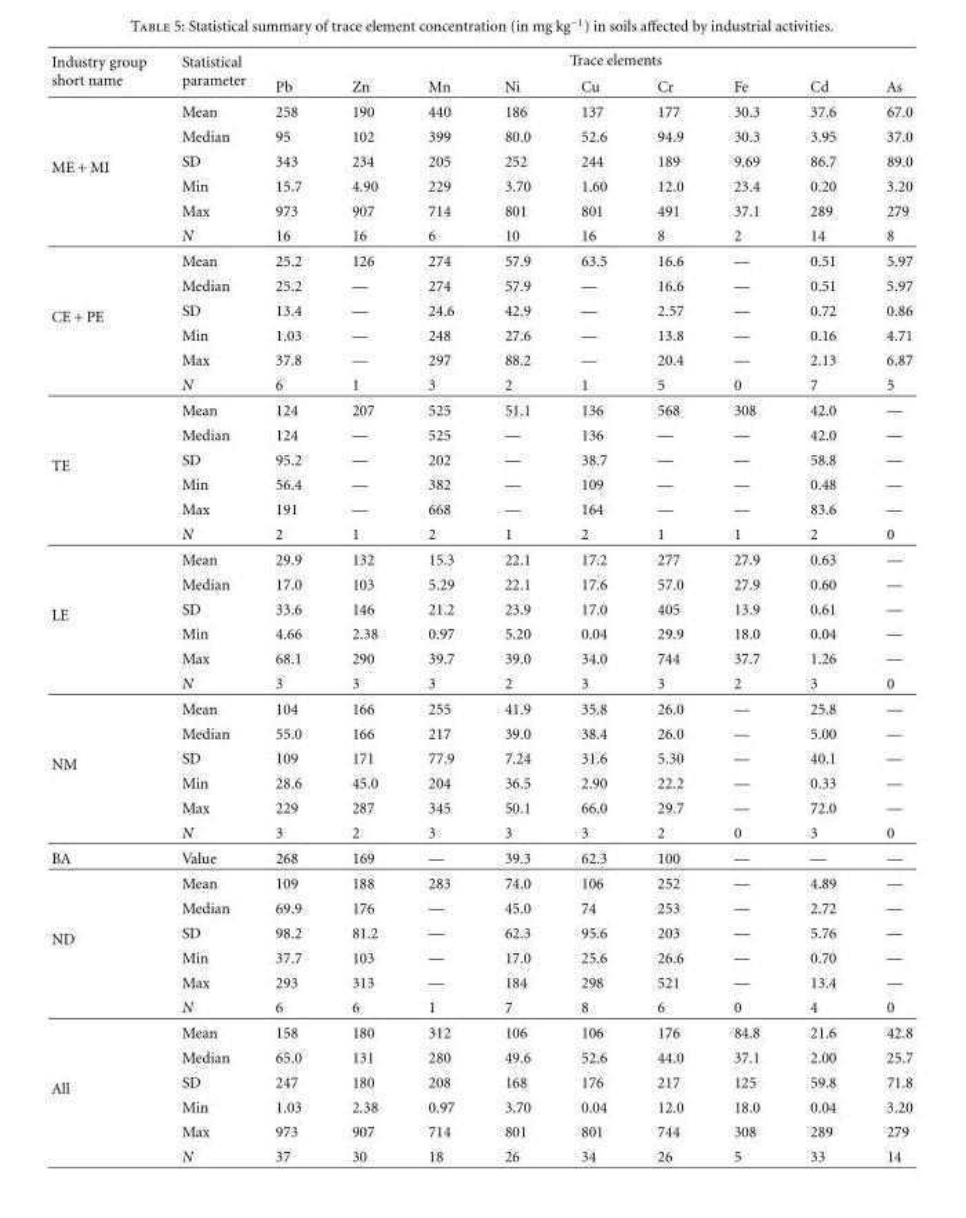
<table><thead><tr><td rowspan="2">Industry group short name</td><td rowspan="2">Statistical parameter</td><td colspan="9">Trace elements</td></tr><tr><td>Pb</td><td>Zn</td><td>Mn</td><td>Ni</td><td>Cu</td><td>Cr</td><td>Fe</td><td>Cd</td><td>As</td></tr></thead><tbody><tr><td rowspan="6">ME + MI</td><td>Mean</td><td>258</td><td>190</td><td>440</td><td>186</td><td>137</td><td>177</td><td>30.3</td><td>37.6</td><td>67.0</td></tr><tr><td>Median</td><td>95</td><td>102</td><td>399</td><td>80.0</td><td>52.6</td><td>94.9</td><td>30.3</td><td>3.95</td><td>37.0</td></tr><tr><td>SD</td><td>343</td><td>234</td><td>205</td><td>252</td><td>244</td><td>189</td><td>9.69</td><td>86.7</td><td>89.0</td></tr><tr><td>Min</td><td>15.7</td><td>4.90</td><td>229</td><td>3.70</td><td>1.60</td><td>12.0</td><td>23.4</td><td>0.20</td><td>3.20</td></tr><tr><td>Max</td><td>973</td><td>907</td><td>714</td><td>801</td><td>801</td><td>491</td><td>37.1</td><td>289</td><td>279</td></tr><tr><td>N</td><td>16</td><td>16</td><td>6</td><td>10</td><td>16</td><td>8</td><td>2</td><td>14</td><td>8</td></tr><tr><td rowspan="6">CE + PE</td><td>Mean</td><td>25.2</td><td>126</td><td>274</td><td>57.9</td><td>63.5</td><td>16.6</td><td>—</td><td>0.51</td><td>5.97</td></tr><tr><td>Median</td><td>25.2</td><td>—</td><td>274</td><td>57.9</td><td>—</td><td>16.6</td><td>—</td><td>0.51</td><td>5.97</td></tr><tr><td>SD</td><td>13.4</td><td>—</td><td>24.6</td><td>42.9</td><td>—</td><td>2.57</td><td>—</td><td>0.72</td><td>0.86</td></tr><tr><td>Min</td><td>1.03</td><td>—</td><td>248</td><td>27.6</td><td>—</td><td>13.8</td><td>—</td><td>0.16</td><td>4.71</td></tr><tr><td>Max</td><td>37.8</td><td>—</td><td>297</td><td>88.2</td><td>—</td><td>20.4</td><td>—</td><td>2.13</td><td>6.87</td></tr><tr><td>N</td><td>6</td><td>1</td><td>3</td><td>2</td><td>1</td><td>5</td><td>0</td><td>7</td><td>5</td></tr><tr><td rowspan="6">TE</td><td>Mean</td><td>124</td><td>207</td><td>525</td><td>51.1</td><td>136</td><td>568</td><td>308</td><td>42.0</td><td>—</td></tr><tr><td>Median</td><td>124</td><td>—</td><td>525</td><td>—</td><td>136</td><td>—</td><td>—</td><td>42.0</td><td>—</td></tr><tr><td>SD</td><td>95.2</td><td>—</td><td>202</td><td>—</td><td>38.7</td><td>—</td><td>—</td><td>58.8</td><td>—</td></tr><tr><td>Min</td><td>56.4</td><td>—</td><td>382</td><td>—</td><td>109</td><td>—</td><td>—</td><td>0.48</td><td>—</td></tr><tr><td>Max</td><td>191</td><td>—</td><td>668</td><td>—</td><td>164</td><td>—</td><td>—</td><td>83.6</td><td>—</td></tr><tr><td>N</td><td>2</td><td>1</td><td>2</td><td>1</td><td>2</td><td>1</td><td>1</td><td>2</td><td>0</td></tr><tr><td rowspan="6">LE</td><td>Mean</td><td>29.9</td><td>132</td><td>15.3</td><td>22.1</td><td>17.2</td><td>277</td><td>27.9</td><td>0.63</td><td>—</td></tr><tr><td>Median</td><td>17.0</td><td>103</td><td>5.29</td><td>22.1</td><td>17.6</td><td>57.0</td><td>27.9</td><td>0.60</td><td>—</td></tr><tr><td>SD</td><td>33.6</td><td>146</td><td>21.2</td><td>23.9</td><td>17.0</td><td>405</td><td>13.9</td><td>0.61</td><td>—</td></tr><tr><td>Min</td><td>4.66</td><td>2.38</td><td>0.97</td><td>5.20</td><td>0.04</td><td>29.9</td><td>18.0</td><td>0.04</td><td>—</td></tr><tr><td>Max</td><td>68.1</td><td>290</td><td>39.7</td><td>39.0</td><td>34.0</td><td>744</td><td>37.7</td><td>1.26</td><td>—</td></tr><tr><td>N</td><td>3</td><td>3</td><td>3</td><td>2</td><td>3</td><td>3</td><td>2</td><td>3</td><td>0</td></tr><tr><td rowspan="6">NM</td><td>Mean</td><td>104</td><td>166</td><td>255</td><td>41.9</td><td>35.8</td><td>26.0</td><td>—</td><td>25.8</td><td>—</td></tr><tr><td>Median</td><td>55.0</td><td>166</td><td>217</td><td>39.0</td><td>38.4</td><td>26.0</td><td>—</td><td>5.00</td><td>—</td></tr><tr><td>SD</td><td>109</td><td>171</td><td>77.9</td><td>7.24</td><td>31.6</td><td>5.30</td><td>—</td><td>40.1</td><td>—</td></tr><tr><td>Min</td><td>28.6</td><td>45.0</td><td>204</td><td>36.5</td><td>2.90</td><td>22.2</td><td>—</td><td>0.33</td><td>—</td></tr><tr><td>Max</td><td>229</td><td>287</td><td>345</td><td>50.1</td><td>66.0</td><td>29.7</td><td>—</td><td>72.0</td><td>—</td></tr><tr><td>N</td><td>3</td><td>2</td><td>3</td><td>3</td><td>3</td><td>2</td><td>0</td><td>3</td><td>0</td></tr><tr><td>BA</td><td>Value</td><td>268</td><td>169</td><td>—</td><td>39.3</td><td>62.3</td><td>100</td><td>—</td><td>—</td><td>—</td></tr><tr><td rowspan="6">ND</td><td>Mean</td><td>109</td><td>188</td><td>283</td><td>74.0</td><td>106</td><td>252</td><td>—</td><td>4.89</td><td>—</td></tr><tr><td>Median</td><td>69.9</td><td>176</td><td>—</td><td>45.0</td><td>74</td><td>253</td><td>—</td><td>2.72</td><td>—</td></tr><tr><td>SD</td><td>98.2</td><td>81.2</td><td>—</td><td>62.3</td><td>95.6</td><td>203</td><td>—</td><td>5.76</td><td>—</td></tr><tr><td>Min</td><td>37.7</td><td>103</td><td>—</td><td>17.0</td><td>25.6</td><td>26.6</td><td>—</td><td>0.70</td><td>—</td></tr><tr><td>Max</td><td>293</td><td>313</td><td>—</td><td>184</td><td>298</td><td>521</td><td>—</td><td>13.4</td><td>—</td></tr><tr><td>N</td><td>6</td><td>6</td><td>1</td><td>7</td><td>8</td><td>6</td><td>0</td><td>4</td><td>0</td></tr><tr><td rowspan="6">All</td><td>Mean</td><td>158</td><td>180</td><td>312</td><td>106</td><td>106</td><td>176</td><td>84.8</td><td>21.6</td><td>42.8</td></tr><tr><td>Median</td><td>65.0</td><td>131</td><td>280</td><td>49.6</td><td>52.6</td><td>44.0</td><td>37.1</td><td>2.00</td><td>25.7</td></tr><tr><td>SD</td><td>247</td><td>180</td><td>208</td><td>168</td><td>176</td><td>217</td><td>125</td><td>59.8</td><td>71.8</td></tr><tr><td>Min</td><td>1.03</td><td>2.38</td><td>0.97</td><td>3.70</td><td>0.04</td><td>12.0</td><td>18.0</td><td>0.04</td><td>3.20</td></tr><tr><td>Max</td><td>973</td><td>907</td><td>714</td><td>801</td><td>801</td><td>744</td><td>308</td><td>289</td><td>279</td></tr><tr><td>N</td><td>37</td><td>30</td><td>18</td><td>26</td><td>34</td><td>26</td><td>5</td><td>33</td><td>14</td></tr></tbody></table>